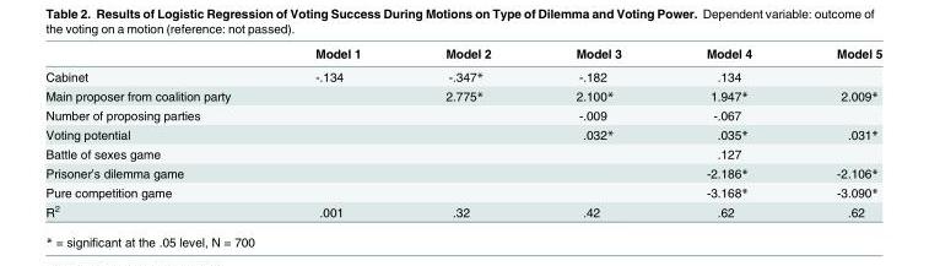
<table><thead><tr><td></td><td>Model 1</td><td>Model 2</td><td>Model 3</td><td>Model 4</td><td>Model 5</td></tr></thead><tbody><tr><td>Cabinet</td><td>-.134</td><td>-.347*</td><td>-.182</td><td>.134</td><td></td></tr><tr><td>Main proposer from coalition party</td><td></td><td>2.775*</td><td>2.100*</td><td>1.947*</td><td>2.009*</td></tr><tr><td>Number of proposing parties</td><td></td><td></td><td>-.009</td><td>-.067</td><td></td></tr><tr><td>Voting potential</td><td></td><td></td><td>.032*</td><td>.035*</td><td>.031*</td></tr><tr><td>Battle of sexes game</td><td></td><td></td><td></td><td>.127</td><td></td></tr><tr><td>Prisoner’s dilemma game</td><td></td><td></td><td></td><td>-2.186*</td><td>-2.106*</td></tr><tr><td>Pure competition game</td><td></td><td></td><td></td><td>-3.168*</td><td>-3.090*</td></tr><tr><td>R<sup>2</sup></td><td>.001</td><td>.32</td><td>.42</td><td>.62</td><td>.62</td></tr></tbody></table>